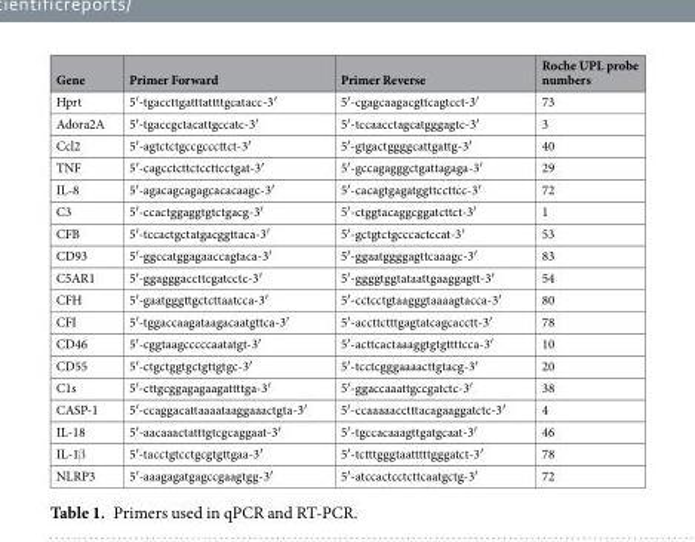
<table><thead><tr><td>Gene</td><td>Primer Forward</td><td>Primer Reverse</td><td>Roche UPL probe numbers</td></tr></thead><tbody><tr><td>Hprt</td><td>5′-tgaccttgatttattttgcatacc-3′</td><td>5′-cgagcaagacgttcagtcct-3′</td><td>73</td></tr><tr><td>Adora2A</td><td>5′-tgaccgctacattgccatc-3′</td><td>5′-tccaacctagcatgggagtc-3′</td><td>3</td></tr><tr><td>Ccl2</td><td>5′-agtctctgccgcccttct-3′</td><td>5′-gtgactggggcattgattg-3′</td><td>40</td></tr><tr><td>TNF</td><td>5′-cagcctcttctccttcctgat-3′</td><td>5′-gccagagggctgattagaga-3′</td><td>29</td></tr><tr><td>IL-8</td><td>5′-agacagcagagcacacaagc-3′</td><td>5′-cacagtgagatggttccttcc-3′</td><td>72</td></tr><tr><td>C3</td><td>5′-ccactggaggtgtctgacg-3′</td><td>5′-ctggtacaggcggatcttct-3′</td><td>1</td></tr><tr><td>CFB</td><td>5′-tccactgctatgacggttaca-3′</td><td>5′-gctgtctgcccactccat-3′</td><td>53</td></tr><tr><td>CD93</td><td>5′-ggccatggagaaccagtaca-3′</td><td>5′-ggaatggggagttcaaagc-3′</td><td>83</td></tr><tr><td>C5AR1</td><td>5′-ggagggaccttcgatcctc-3′</td><td>5′-ggggtggtataattgaaggagtt-3′</td><td>54</td></tr><tr><td>CFH</td><td>5′-gaatgggttgctcttaatcca-3′</td><td>5′-cctcctgtaagggtaaaagtacca-3′</td><td>80</td></tr><tr><td>CFI</td><td>5′-tggaccaagataagacaatgttca-3′</td><td>5′-accttctttgagtatcagcacctt-3′</td><td>78</td></tr><tr><td>CD46</td><td>5′-cggtaagcccccaatatgt-3′</td><td>5′-acttcactaaaggtgtgttttcca-3′</td><td>10</td></tr><tr><td>CD55</td><td>5′-ctgctggtgctgttgtgc-3′</td><td>5′-tcctcgggaaaacttgtacg-3′</td><td>20</td></tr><tr><td>C1s</td><td>5′-cttgcggagagaagattttga-3′</td><td>5′-ggaccaaattgccgatctc-3′</td><td>38</td></tr><tr><td>CASP-1</td><td>5′-ccaggacattaaaataaggaaactgta-3′</td><td>5′-ccaaaaacctttacagaaggatctc-3′</td><td>4</td></tr><tr><td>IL-18</td><td>5′-aacaaactatttgtcgcaggaat-3′</td><td>5′-tgccacaaagttgatgcaat-3′</td><td>46</td></tr><tr><td>IL-1β</td><td>5′-tacctgtcctgcgtgttgaa-3′</td><td>5′-tctttgggtaatttttgggatct-3′</td><td>78</td></tr><tr><td>NLRP3</td><td>5′-aaagagatgagccgaagtgg-3′</td><td>5′-atccactcctcttcaatgctg-3′</td><td>72</td></tr></tbody></table>